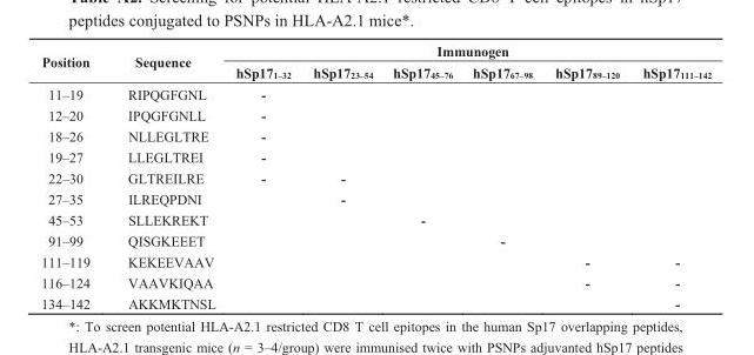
<table><thead><tr><td rowspan="2">Position</td><td rowspan="2">Sequence</td><td colspan="6">Immunogen</td></tr><tr><td>hSp17<sub>1–32</sub></td><td>hSp17<sub>23–54</sub></td><td>hSp17<sub>45–76</sub></td><td>hSp17<sub>67–98</sub></td><td>hSp17<sub>89–120</sub></td><td>hSp17<sub>111–142</sub></td></tr></thead><tbody><tr><td>11–19</td><td>RIPQGFGNL</td><td>-</td><td></td><td></td><td></td><td></td><td></td></tr><tr><td>12–20</td><td>IPQGFGNLL</td><td>-</td><td></td><td></td><td></td><td></td><td></td></tr><tr><td>18–26</td><td>NLLEGLTRE</td><td>-</td><td></td><td></td><td></td><td></td><td></td></tr><tr><td>19–27</td><td>LLEGLTREI</td><td>-</td><td></td><td></td><td></td><td></td><td></td></tr><tr><td>22–30</td><td>GLTREILRE</td><td>-</td><td>-</td><td></td><td></td><td></td><td></td></tr><tr><td>27–35</td><td>ILREQPDNI</td><td></td><td>-</td><td></td><td></td><td></td><td></td></tr><tr><td>45–53</td><td>SLLEKREKT</td><td></td><td></td><td>-</td><td></td><td></td><td></td></tr><tr><td>91–99</td><td>QISGKEEET</td><td></td><td></td><td></td><td>-</td><td></td><td></td></tr><tr><td>111–119</td><td>KEKEEVAAV</td><td></td><td></td><td></td><td></td><td>-</td><td>-</td></tr><tr><td>116–124</td><td>VAAVKIQAA</td><td></td><td></td><td></td><td></td><td>-</td><td>-</td></tr><tr><td>134–142</td><td>AKKMKTNSL</td><td></td><td></td><td></td><td></td><td></td><td>-</td></tr></tbody></table>